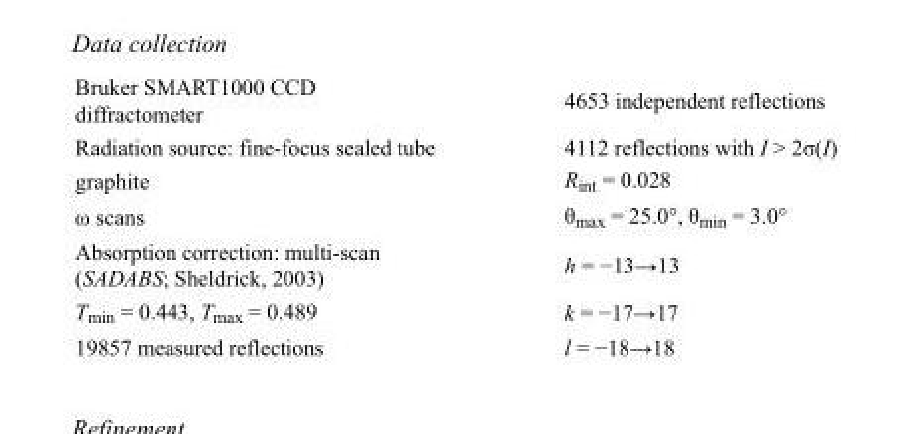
<table><tbody><tr><td>Bruker SMART1000 CCD diffractometer</td><td>4653 independent reflections</td></tr><tr><td>Radiation source: fine-focus sealed tube</td><td>4112 reflections with I &gt; 2σ(I)</td></tr><tr><td>graphite</td><td>R<sub>int</sub> = 0.028</td></tr><tr><td>ω scans</td><td>θ<sub>max</sub> = 25.0°, θ<sub>min</sub> = 3.0°</td></tr><tr><td>Absorption correction: multi-scan (SADABS; Sheldrick, 2003)</td><td>h = −13→13</td></tr><tr><td>T<sub>min</sub> = 0.443, T<sub>max</sub> = 0.489</td><td>k = −17→17</td></tr><tr><td>19857 measured reflections</td><td>l = −18→18</td></tr></tbody></table>